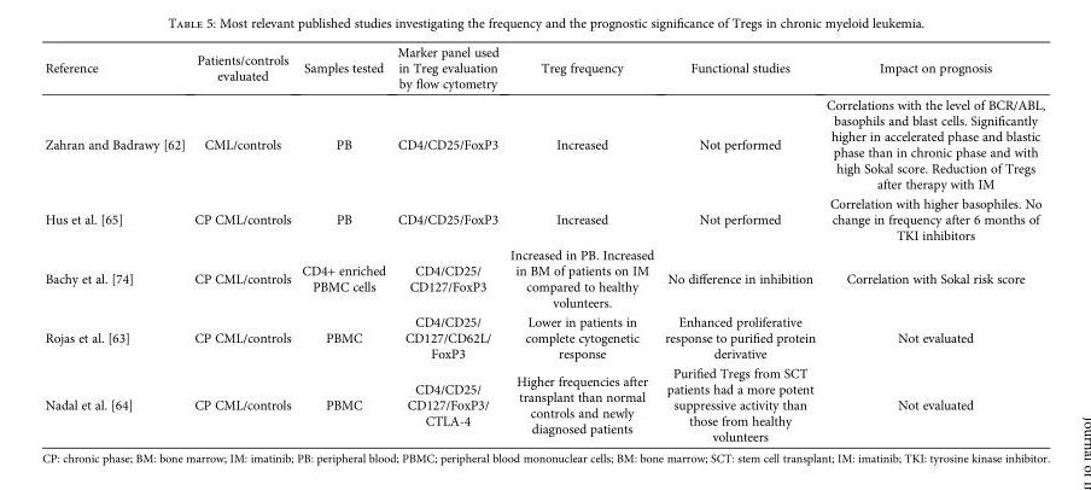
<table><thead><tr><td>Reference</td><td>Patients/controls evaluated</td><td>Samples tested</td><td>Marker panel used in Treg evaluation by flow cytometry</td><td>Treg frequency</td><td>Functional studies</td><td>Impact on prognosis</td></tr></thead><tbody><tr><td>Zahran and Badrawy [62]</td><td>CML/controls</td><td>PB</td><td>CD4/CD25/FoxP3</td><td>Increased</td><td>Not performed</td><td>Correlations with the level of BCR/ABL, basophils and blast cells. Significantly higher in accelerated phase and blastic phase than in chronic phase and with high Sokal score. Reduction of Tregs after therapy with IM</td></tr><tr><td>Hus et al. [65]</td><td>CP CML/controls</td><td>PB</td><td>CD4/CD25/FoxP3</td><td>Increased</td><td>Not performed</td><td>Correlation with higher basophiles. No change in frequency after 6 months of TKI inhibitors</td></tr><tr><td>Bachy et al. [74]</td><td>CP CML/controls</td><td>CD4+ enriched PBMC cells</td><td>CD4/CD25/ CD127/FoxP3</td><td>Increased in PB. Increased in BM of patients on IM compared to healthy volunteers.</td><td>No difference in inhibition</td><td>Correlation with Sokal risk score</td></tr><tr><td>Rojas et al. [63]</td><td>CP CML/controls</td><td>PBMC</td><td>CD4/CD25/ CD127/CD62L/ FoxP3</td><td>Lower in patients in complete cytogenetic response</td><td>Enhanced proliferative response to purified protein derivative</td><td>Not evaluated</td></tr><tr><td>Nadal et al. [64]</td><td>CP CML/controls</td><td>PBMC</td><td>CD4/CD25/ CD127/FoxP3/ CTLA-4</td><td>Higher frequencies after transplant than normal controls and newly diagnosed patients</td><td>Purified Tregs from SCT patients had a more potent suppressive activity than those from healthy volunteers</td><td>Not evaluated</td></tr></tbody></table>